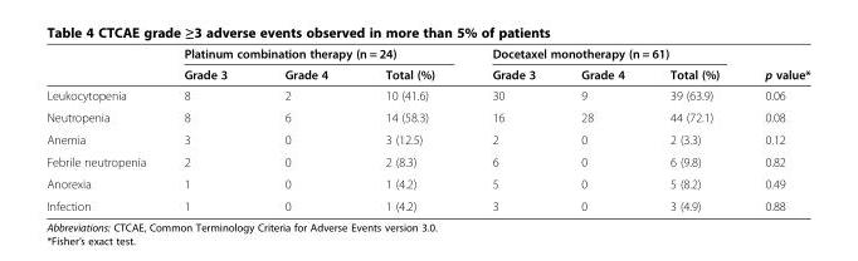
<table><thead><tr><td rowspan="2"></td><td colspan="3">Platinum combination therapy (n = 24)</td><td colspan="3">Docetaxel monotherapy (n = 61)</td><td rowspan="2">p value*</td></tr><tr><td>Grade 3</td><td>Grade 4</td><td>Total (%)</td><td>Grade 3</td><td>Grade 4</td><td>Total (%)</td></tr></thead><tbody><tr><td>Leukocytopenia</td><td>8</td><td>2</td><td>10 (41.6)</td><td>30</td><td>9</td><td>39 (63.9)</td><td>0.06</td></tr><tr><td>Neutropenia</td><td>8</td><td>6</td><td>14 (58.3)</td><td>16</td><td>28</td><td>44 (72.1)</td><td>0.08</td></tr><tr><td>Anemia</td><td>3</td><td>0</td><td>3 (12.5)</td><td>2</td><td>0</td><td>2 (3.3)</td><td>0.12</td></tr><tr><td>Febrile neutropenia</td><td>2</td><td>0</td><td>2 (8.3)</td><td>6</td><td>0</td><td>6 (9.8)</td><td>0.82</td></tr><tr><td>Anorexia</td><td>1</td><td>0</td><td>1 (4.2)</td><td>5</td><td>0</td><td>5 (8.2)</td><td>0.49</td></tr><tr><td>Infection</td><td>1</td><td>0</td><td>1 (4.2)</td><td>3</td><td>0</td><td>3 (4.9)</td><td>0.88</td></tr></tbody></table>